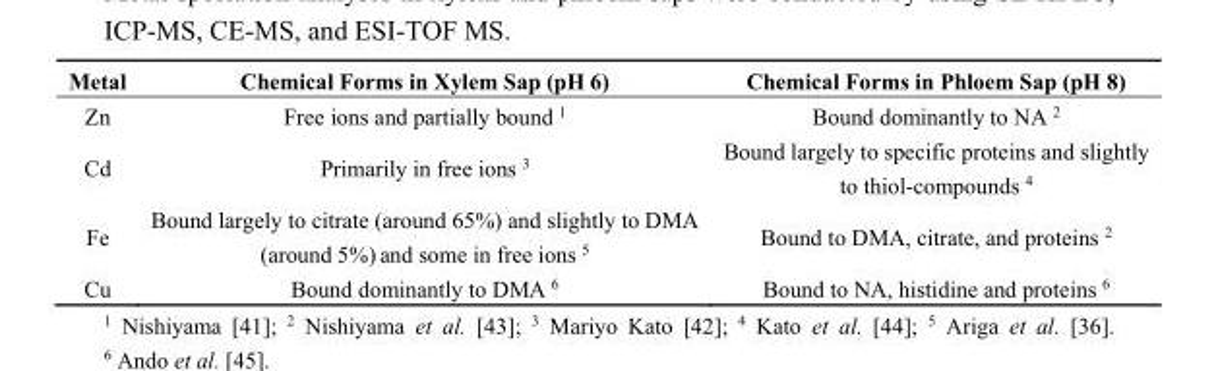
<table><thead><tr><td>Metal</td><td>Chemical Forms in Xylem Sap (pH 6)</td><td>Chemical Forms in Phloem Sap (pH 8)</td></tr></thead><tbody><tr><td>Zn</td><td>Free ions and partially bound <sup>1</sup></td><td>Bound dominantly to NA <sup>2</sup></td></tr><tr><td>Cd</td><td>Primarily in free ions <sup>3</sup></td><td>Bound largely to specific proteins and slightly to thiol-compounds <sup>4</sup></td></tr><tr><td>Fe</td><td>Bound largely to citrate (around 65%) and slightly to DMA (around 5%) and some in free ions <sup>5</sup></td><td>Bound to DMA, citrate, and proteins <sup>2</sup></td></tr><tr><td>Cu</td><td>Bound dominantly to DMA <sup>6</sup></td><td>Bound to NA, histidine and proteins <sup>6</sup></td></tr></tbody></table>